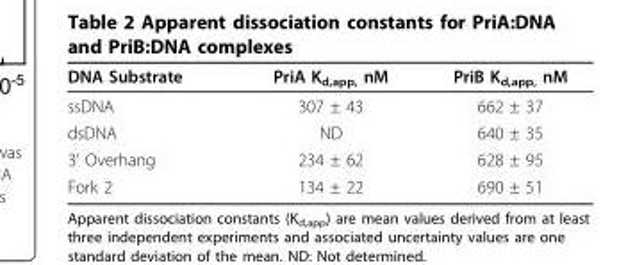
<table><thead><tr><td>DNA Substrate</td><td>PriA K<sub>d,app,</sub> nM</td><td>PriB K<sub>d,app,</sub> nM</td></tr></thead><tbody><tr><td>ssDNA</td><td>307 ± 43</td><td>662 ± 37</td></tr><tr><td>dsDNA</td><td>ND</td><td>640 ± 35</td></tr><tr><td>3’ Overhang</td><td>234 ± 62</td><td>628 ± 95</td></tr><tr><td>Fork 2</td><td>134 ± 22</td><td>690 ± 51</td></tr></tbody></table>